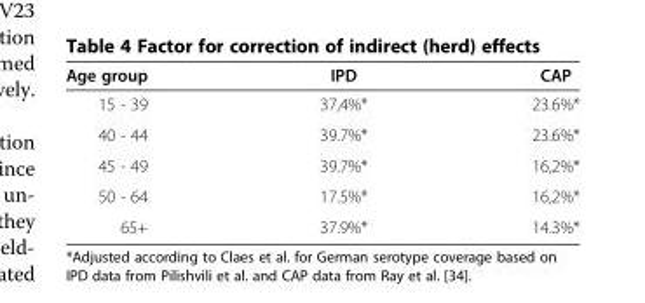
<table><thead><tr><td>Age group</td><td>IPD</td><td>CAP</td></tr></thead><tbody><tr><td>15 - 39</td><td>37,4%*</td><td>23.6%*</td></tr><tr><td>40 - 44</td><td>39.7%*</td><td>23.6%*</td></tr><tr><td>45 - 49</td><td>39.7%*</td><td>16,2%*</td></tr><tr><td>50 - 64</td><td>17.5%*</td><td>16,2%*</td></tr><tr><td>65+</td><td>37.9%*</td><td>14.3%*</td></tr></tbody></table>